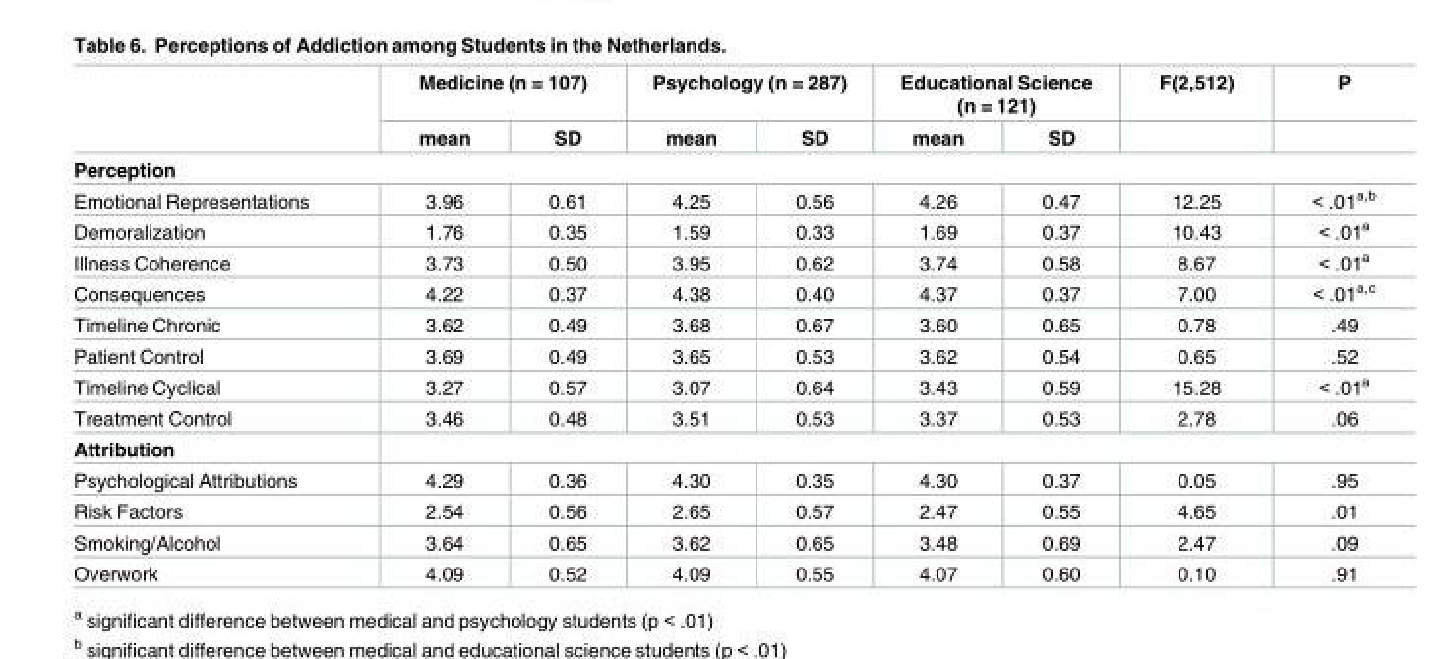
<table><thead><tr><td rowspan="2"></td><td colspan="2">Medicine (n = 107)</td><td colspan="2">Psychology (n = 287)</td><td colspan="2">Educational Science (n = 121)</td><td rowspan="2">F(2,512)</td><td rowspan="2">P</td></tr><tr><td>mean</td><td>SD</td><td>mean</td><td>SD</td><td>mean</td><td>SD</td></tr></thead><tbody><tr><td colspan="9">Perception</td></tr><tr><td>Emotional Representations</td><td>3.96</td><td>0.61</td><td>4.25</td><td>0.56</td><td>4.26</td><td>0.47</td><td>12.25</td><td>&lt; .01<sup>a,b</sup></td></tr><tr><td>Demoralization</td><td>1.76</td><td>0.35</td><td>1.59</td><td>0.33</td><td>1.69</td><td>0.37</td><td>10.43</td><td>&lt; .01<sup>a</sup></td></tr><tr><td>Illness Coherence</td><td>3.73</td><td>0.50</td><td>3.95</td><td>0.62</td><td>3.74</td><td>0.58</td><td>8.67</td><td>&lt; .01<sup>a</sup></td></tr><tr><td>Consequences</td><td>4.22</td><td>0.37</td><td>4.38</td><td>0.40</td><td>4.37</td><td>0.37</td><td>7.00</td><td>&lt; .01<sup>a,c</sup></td></tr><tr><td>Timeline Chronic</td><td>3.62</td><td>0.49</td><td>3.68</td><td>0.67</td><td>3.60</td><td>0.65</td><td>0.78</td><td>.49</td></tr><tr><td>Patient Control</td><td>3.69</td><td>0.49</td><td>3.65</td><td>0.53</td><td>3.62</td><td>0.54</td><td>0.65</td><td>.52</td></tr><tr><td>Timeline Cyclical</td><td>3.27</td><td>0.57</td><td>3.07</td><td>0.64</td><td>3.43</td><td>0.59</td><td>15.28</td><td>&lt; .01<sup>a</sup></td></tr><tr><td>Treatment Control</td><td>3.46</td><td>0.48</td><td>3.51</td><td>0.53</td><td>3.37</td><td>0.53</td><td>2.78</td><td>.06</td></tr><tr><td colspan="9">Attribution</td></tr><tr><td>Psychological Attributions</td><td>4.29</td><td>0.36</td><td>4.30</td><td>0.35</td><td>4.30</td><td>0.37</td><td>0.05</td><td>.95</td></tr><tr><td>Risk Factors</td><td>2.54</td><td>0.56</td><td>2.65</td><td>0.57</td><td>2.47</td><td>0.55</td><td>4.65</td><td>.01</td></tr><tr><td>Smoking/Alcohol</td><td>3.64</td><td>0.65</td><td>3.62</td><td>0.65</td><td>3.48</td><td>0.69</td><td>2.47</td><td>.09</td></tr><tr><td>Overwork</td><td>4.09</td><td>0.52</td><td>4.09</td><td>0.55</td><td>4.07</td><td>0.60</td><td>0.10</td><td>.91</td></tr></tbody></table>